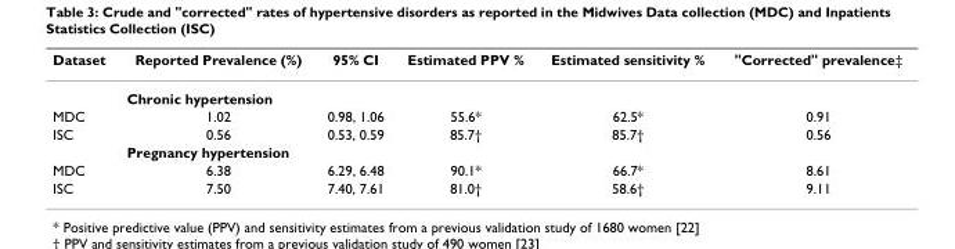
<table><thead><tr><td>Dataset</td><td>Reported Prevalence (%)</td><td>95% CI</td><td>Estimated PPV %</td><td>Estimated sensitivity %</td><td>&quot;Corrected&quot; prevalence‡</td></tr></thead><tbody><tr><td></td><td colspan="5">Chronic hypertension</td></tr><tr><td>MDC</td><td>1.02</td><td>0.98, 1.06</td><td>55.6*</td><td>62.5*</td><td>0.91</td></tr><tr><td rowspan="2">ISC</td><td>0.56</td><td>0.53, 0.59</td><td>85.7†</td><td>85.7†</td><td>0.56</td></tr><tr><td colspan="5">Pregnancy hypertension</td></tr><tr><td>MDC</td><td>6.38</td><td>6.29, 6.48</td><td>90.1*</td><td>66.7*</td><td>8.61</td></tr><tr><td>ISC</td><td>7.50</td><td>7.40, 7.61</td><td>81.0†</td><td>58.6†</td><td>9.11</td></tr></tbody></table>